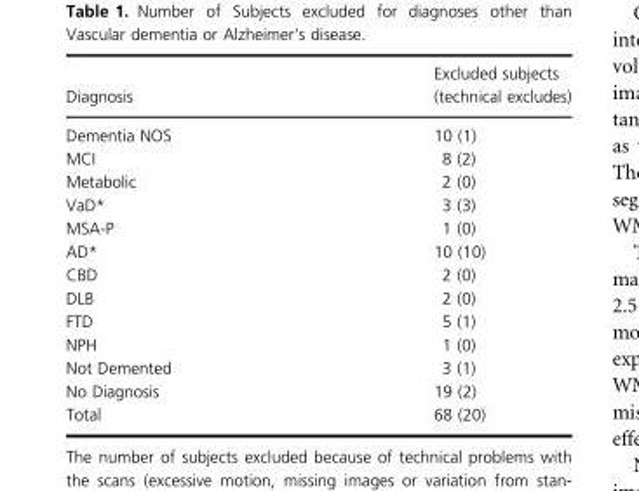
<table><thead><tr><td>Diagnosis</td><td>Excluded subjects (technical excludes)</td></tr></thead><tbody><tr><td>Dementia NOS</td><td>10 (1)</td></tr><tr><td>MCI</td><td>8 (2)</td></tr><tr><td>Metabolic</td><td>2 (0)</td></tr><tr><td>VaD*</td><td>3 (3)</td></tr><tr><td>MSA-P</td><td>1 (0)</td></tr><tr><td>AD*</td><td>10 (10)</td></tr><tr><td>CBD</td><td>2 (0)</td></tr><tr><td>DLB</td><td>2 (0)</td></tr><tr><td>FTD</td><td>5 (1)</td></tr><tr><td>NPH</td><td>1 (0)</td></tr><tr><td>Not Demented</td><td>3 (1)</td></tr><tr><td>No Diagnosis</td><td>19 (2)</td></tr><tr><td>Total</td><td>68 (20)</td></tr></tbody></table>